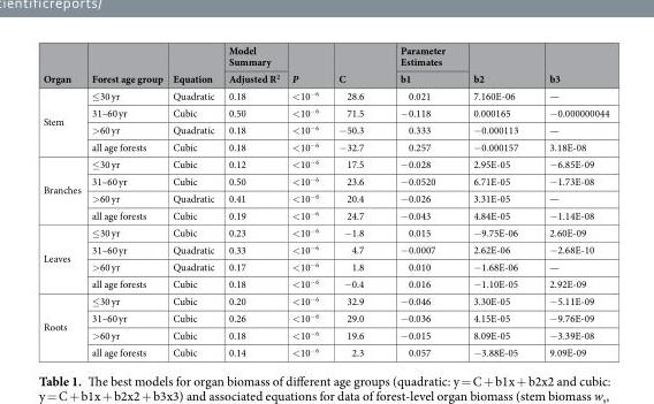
<table><thead><tr><td rowspan="2">Organ</td><td rowspan="2">Forest age group</td><td rowspan="2">Equation</td><td rowspan="2">Model Summary Adjusted R<sup>2</sup></td><td rowspan="2">P</td><td rowspan="2">C</td><td rowspan="2">Parameter Estimates b1</td><td rowspan="2">b2</td><td rowspan="2">b3</td></tr><tr></tr></thead><tbody><tr><td rowspan="4">Stem</td><td>≤30 yr</td><td>Quadratic</td><td>0.18</td><td>&lt;10<sup>−6</sup></td><td>28.6</td><td>0.021</td><td>7.160E-06</td><td>—</td></tr><tr><td>31–60 yr</td><td>Cubic</td><td>0.50</td><td>&lt;10<sup>−6</sup></td><td>71.5</td><td>−0.118</td><td>0.000165</td><td>−0.000000044</td></tr><tr><td>&gt;60 yr</td><td>Quadratic</td><td>0.18</td><td>&lt;10<sup>−6</sup></td><td>−50.3</td><td>0.333</td><td>−0.000113</td><td>—</td></tr><tr><td>all age forests</td><td>Cubic</td><td>0.18</td><td>&lt;10<sup>−6</sup></td><td>−32.7</td><td>0.257</td><td>−0.000157</td><td>3.18E-08</td></tr><tr><td rowspan="4">Branches</td><td>≤30 yr</td><td>Cubic</td><td>0.12</td><td>&lt;10<sup>−6</sup></td><td>17.5</td><td>−0.028</td><td>2.95E-05</td><td>−6.85E-09</td></tr><tr><td>31–60 yr</td><td>Cubic</td><td>0.50</td><td>&lt;10<sup>−6</sup></td><td>23.6</td><td>−0.0520</td><td>6.71E-05</td><td>−1.73E-08</td></tr><tr><td>&gt;60 yr</td><td>Quadratic</td><td>0.41</td><td>&lt;10<sup>−6</sup></td><td>20.4</td><td>−0.026</td><td>3.31E-05</td><td>—</td></tr><tr><td>all age forests</td><td>Cubic</td><td>0.19</td><td>&lt;10<sup>−6</sup></td><td>24.7</td><td>−0.043</td><td>4.84E-05</td><td>−1.14E-08</td></tr><tr><td rowspan="4">Leaves</td><td>≤30 yr</td><td>Cubic</td><td>0.23</td><td>&lt;10<sup>−6</sup></td><td>−1.8</td><td>0.015</td><td>−9.75E-06</td><td>2.60E-09</td></tr><tr><td>31–60 yr</td><td>Quadratic</td><td>0.33</td><td>&lt;10<sup>−6</sup></td><td>4.7</td><td>−0.0007</td><td>2.62E-06</td><td>−2.68E-10</td></tr><tr><td>&gt;60 yr</td><td>Quadratic</td><td>0.17</td><td>&lt;10<sup>−6</sup></td><td>1.8</td><td>0.010</td><td>−1.68E-06</td><td>—</td></tr><tr><td>all age forests</td><td>Cubic</td><td>0.18</td><td>&lt;10<sup>−6</sup></td><td>−0.4</td><td>0.016</td><td>−1.10E-05</td><td>2.92E-09</td></tr><tr><td rowspan="4">Roots</td><td>≤30 yr</td><td>Cubic</td><td>0.20</td><td>&lt;10<sup>−6</sup></td><td>32.9</td><td>−0.046</td><td>3.30E-05</td><td>−5.11E-09</td></tr><tr><td>31–60 yr</td><td>Cubic</td><td>0.26</td><td>&lt;10<sup>−6</sup></td><td>29.0</td><td>−0.036</td><td>4.15E-05</td><td>−9.76E-09</td></tr><tr><td>&gt;60 yr</td><td>Cubic</td><td>0.18</td><td>&lt;10<sup>−6</sup></td><td>19.6</td><td>−0.015</td><td>8.09E-05</td><td>−3.39E-08</td></tr><tr><td>all age forests</td><td>Cubic</td><td>0.14</td><td>&lt;10<sup>−6</sup></td><td>2.3</td><td>0.057</td><td>−3.88E-05</td><td>9.09E-09</td></tr></tbody></table>